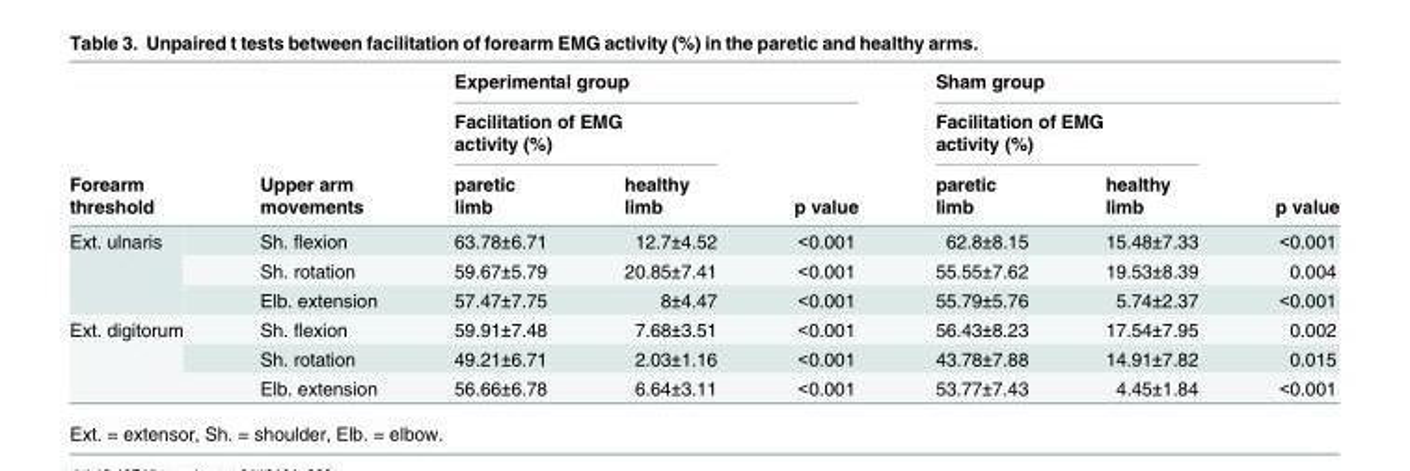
<table><thead><tr><td rowspan="4">Forearm threshold</td><td rowspan="4">Upper arm movements</td><td colspan="3">Experimental group</td><td colspan="3">Sham group</td></tr><tr><td colspan="2">Facilitation of EMG activity (%)</td><td rowspan="3">p value</td><td colspan="2">Facilitation of EMG activity (%)</td><td rowspan="3">p value</td></tr><tr><td rowspan="2">paretic limb</td><td rowspan="2">healthy limb</td><td rowspan="2">paretic limb</td><td rowspan="2">healthy limb</td></tr><tr></tr></thead><tbody><tr><td rowspan="3">Ext. ulnaris</td><td>Sh. flexion</td><td>63.78±6.71</td><td>12.7±4.52</td><td>&lt;0.001</td><td>62.8±8.15</td><td>15.48±7.33</td><td>&lt;0.001</td></tr><tr><td>Sh. rotation</td><td>59.67±5.79</td><td>20.85±7.41</td><td>&lt;0.001</td><td>55.55±7.62</td><td>19.53±8.39</td><td>0.004</td></tr><tr><td>Elb. extension</td><td>57.47±7.75</td><td>8±4.47</td><td>&lt;0.001</td><td>55.79±5.76</td><td>5.74±2.37</td><td>&lt;0.001</td></tr><tr><td rowspan="3">Ext. digitorum</td><td>Sh. flexion</td><td>59.91±7.48</td><td>7.68±3.51</td><td>&lt;0.001</td><td>56.43±8.23</td><td>17.54±7.95</td><td>0.002</td></tr><tr><td>Sh. rotation</td><td>49.21±6.71</td><td>2.03±1.16</td><td>&lt;0.001</td><td>43.78±7.88</td><td>14.91±7.82</td><td>0.015</td></tr><tr><td>Elb. extension</td><td>56.66±6.78</td><td>6.64±3.11</td><td>&lt;0.001</td><td>53.77±7.43</td><td>4.45±1.84</td><td>&lt;0.001</td></tr></tbody></table>